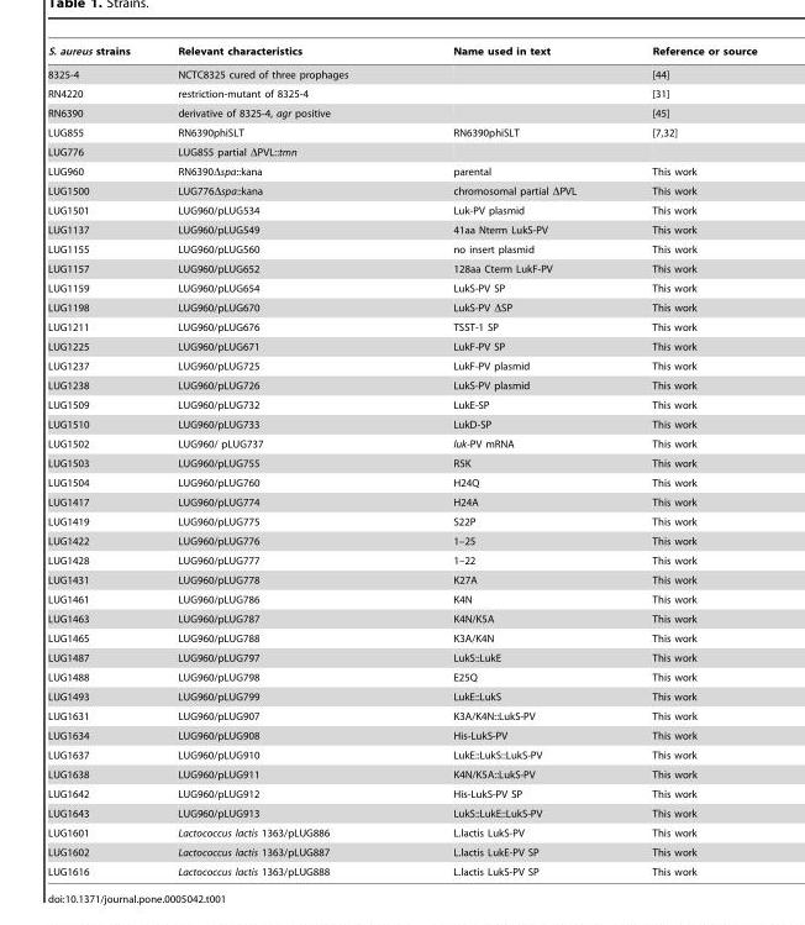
<table><thead><tr><td>S. aureus strains</td><td>Relevant characteristics</td><td>Name used in text</td><td>Reference or source</td></tr></thead><tbody><tr><td>8325-4</td><td>NCTC8325 cured of three prophages</td><td></td><td>[44]</td></tr><tr><td>RN4220</td><td>restriction-mutant of 8325-4</td><td></td><td>[31]</td></tr><tr><td>RN6390</td><td>derivative of 8325-4, agr positive</td><td></td><td>[45]</td></tr><tr><td>LUG855</td><td>RN6390phiSLT</td><td>RN6390phiSLT</td><td>[7,32]</td></tr><tr><td>LUG776</td><td>LUG855 partial ΔPVL::tmn</td><td></td><td></td></tr><tr><td>LUG960</td><td>RN6390Δspa::kana</td><td>parental</td><td>This work</td></tr><tr><td>LUG1500</td><td>LUG776Δspa::kana</td><td>chromosomal partial ΔPVL</td><td>This work</td></tr><tr><td>LUG1501</td><td>LUG960/pLUG534</td><td>Luk-PV plasmid</td><td>This work</td></tr><tr><td>LUG1137</td><td>LUG960/pLUG549</td><td>41aa Nterm LukS-PV</td><td>This work</td></tr><tr><td>LUG1155</td><td>LUG960/pLUG560</td><td>no insert plasmid</td><td>This work</td></tr><tr><td>LUG1157</td><td>LUG960/pLUG652</td><td>128aa Cterm LukF-PV</td><td>This work</td></tr><tr><td>LUG1159</td><td>LUG960/pLUG654</td><td>LukS-PV SP</td><td>This work</td></tr><tr><td>LUG1198</td><td>LUG960/pLUG670</td><td>LukS-PV ΔSP</td><td>This work</td></tr><tr><td>LUG1211</td><td>LUG960/pLUG676</td><td>TSST-1 SP</td><td>This work</td></tr><tr><td>LUG1225</td><td>LUG960/pLUG671</td><td>LukF-PV SP</td><td>This work</td></tr><tr><td>LUG1237</td><td>LUG960/pLUG725</td><td>LukF-PV plasmid</td><td>This work</td></tr><tr><td>LUG1238</td><td>LUG960/pLUG726</td><td>LukS-PV plasmid</td><td>This work</td></tr><tr><td>LUG1509</td><td>LUG960/pLUG732</td><td>LukE-SP</td><td>This work</td></tr><tr><td>LUG1510</td><td>LUG960/pLUG733</td><td>LukD-SP</td><td>This work</td></tr><tr><td>LUG1502</td><td>LUG960/ pLUG737</td><td>luk-PV mRNA</td><td>This work</td></tr><tr><td>LUG1503</td><td>LUG960/pLUG755</td><td>R5K</td><td>This work</td></tr><tr><td>LUG1504</td><td>LUG960/pLUG760</td><td>H24Q</td><td>This work</td></tr><tr><td>LUG1417</td><td>LUG960/pLUG774</td><td>H24A</td><td>This work</td></tr><tr><td>LUG1419</td><td>LUG960/pLUG775</td><td>S22P</td><td>This work</td></tr><tr><td>LUG1422</td><td>LUG960/pLUG776</td><td>1–25</td><td>This work</td></tr><tr><td>LUG1428</td><td>LUG960/pLUG777</td><td>1–22</td><td>This work</td></tr><tr><td>LUG1431</td><td>LUG960/pLUG778</td><td>K27A</td><td>This work</td></tr><tr><td>LUG1461</td><td>LUG960/pLUG786</td><td>K4N</td><td>This work</td></tr><tr><td>LUG1463</td><td>LUG960/pLUG787</td><td>K4N/K5A</td><td>This work</td></tr><tr><td>LUG1465</td><td>LUG960/pLUG788</td><td>K3A/K4N</td><td>This work</td></tr><tr><td>LUG1487</td><td>LUG960/pLUG797</td><td>LukS::LukE</td><td>This work</td></tr><tr><td>LUG1488</td><td>LUG960/pLUG798</td><td>E25Q</td><td>This work</td></tr><tr><td>LUG1493</td><td>LUG960/pLUG799</td><td>LukE::LukS</td><td>This work</td></tr><tr><td>LUG1631</td><td>LUG960/pLUG907</td><td>K3A/K4N::LukS-PV</td><td>This work</td></tr><tr><td>LUG1634</td><td>LUG960/pLUG908</td><td>His-LukS-PV</td><td>This work</td></tr><tr><td>LUG1637</td><td>LUG960/pLUG910</td><td>LukE::LukS::LukS-PV</td><td>This work</td></tr><tr><td>LUG1638</td><td>LUG960/pLUG911</td><td>K4N/K5A::LukS-PV</td><td>This work</td></tr><tr><td>LUG1642</td><td>LUG960/pLUG912</td><td>His-LukS-PV SP</td><td>This work</td></tr><tr><td>LUG1643</td><td>LUG960/pLUG913</td><td>LukS::LukE::LukS-PV</td><td>This work</td></tr><tr><td>LUG1601</td><td>Lactococcus lactis 1363/pLUG886</td><td>L.lactis LukS-PV</td><td>This work</td></tr><tr><td>LUG1602</td><td>Lactococcus lactis 1363/pLUG887</td><td>L.lactis LukE-PV SP</td><td>This work</td></tr><tr><td>LUG1616</td><td>Lactococcus lactis 1363/pLUG888</td><td>L.lactis LukS-PV SP</td><td>This work</td></tr></tbody></table>